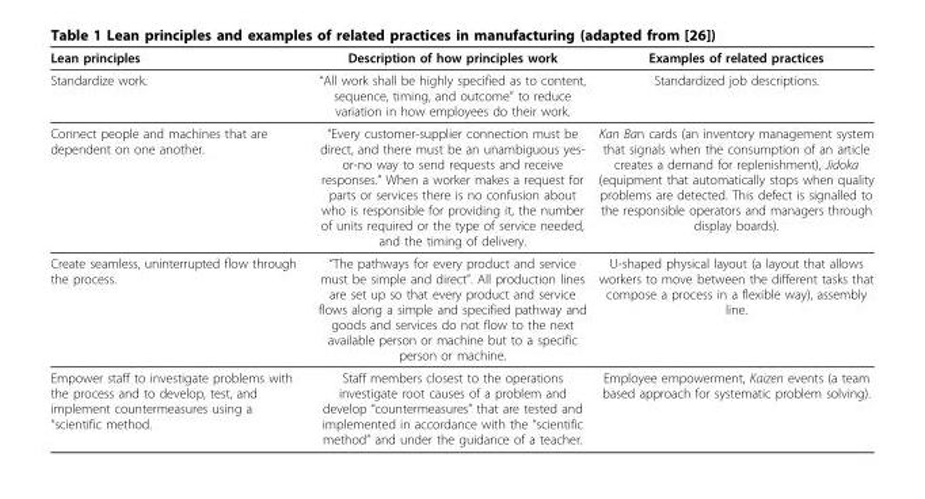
<table><thead><tr><td>Lean principles</td><td>Description of how principles work</td><td>Examples of related practices</td></tr></thead><tbody><tr><td>Standardize work.</td><td>“All work shall be highly specified as to content, sequence, timing, and outcome” to reduce variation in how employees do their work.</td><td>Standardized job descriptions.</td></tr><tr><td>Connect people and machines that are dependent on one another.</td><td>“Every customer-supplier connection must be direct, and there must be an unambiguous yes- or-no way to send requests and receive responses.” When a worker makes a request for parts or services there is no confusion about who is responsible for providing it, the number of units required or the type of service needed, and the timing of delivery.</td><td>Kan Ban cards (an inventory management system that signals when the consumption of an article creates a demand for replenishment), Jidoka (equipment that automatically stops when quality problems are detected. This defect is signalled to the responsible operators and managers through display boards).</td></tr><tr><td>Create seamless, uninterrupted flow through the process.</td><td>“The pathways for every product and service must be simple and direct”. All production lines are set up so that every product and service flows along a simple and specified pathway and goods and services do not flow to the next available person or machine but to a specific person or machine.</td><td>U-shaped physical layout (a layout that allows workers to move between the different tasks that compose a process in a flexible way), assembly line.</td></tr><tr><td>Empower staff to investigate problems with the process and to develop, test, and implement countermeasures using a “scientific method.</td><td>Staff members closest to the operations investigate root causes of a problem and develop “countermeasures” that are tested and implemented in accordance with the “scientific method” and under the guidance of a teacher.</td><td>Employee empowerment, Kaizen events (a team based approach for systematic problem solving).</td></tr></tbody></table>